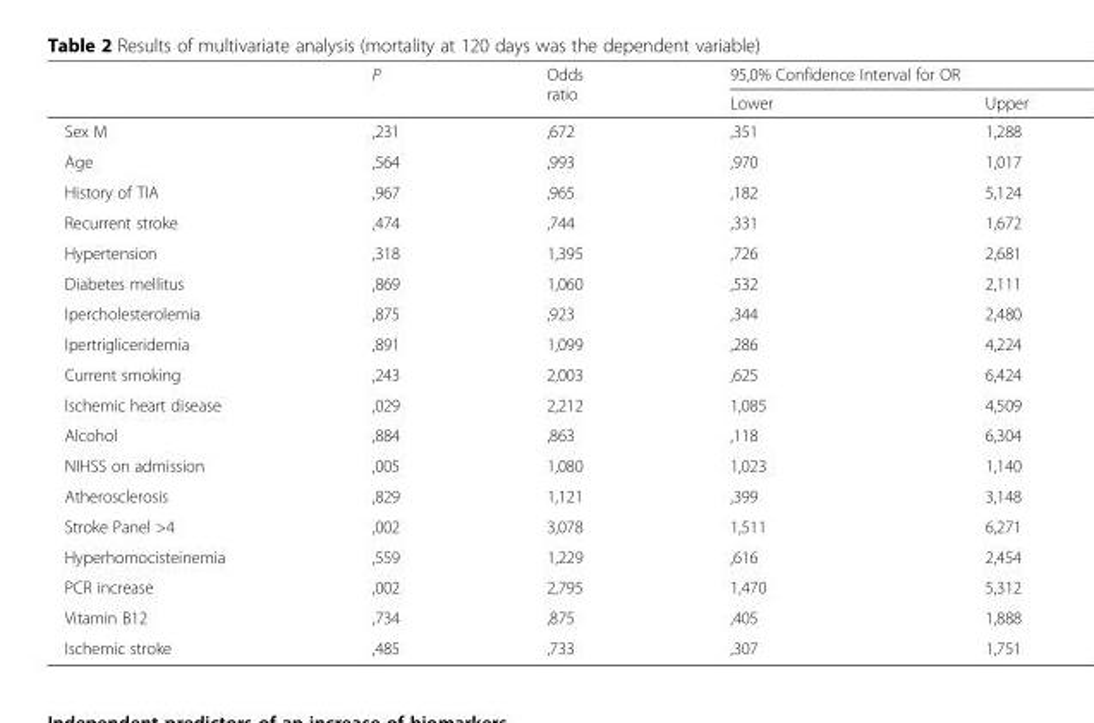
<table><thead><tr><td rowspan="2"></td><td rowspan="2">P</td><td rowspan="2">Odds ratio</td><td colspan="2">95,0% Confidence IntervaI for OR</td></tr><tr><td>Lower</td><td>Upper</td></tr></thead><tbody><tr><td>Sex M</td><td>,231</td><td>,672</td><td>,351</td><td>1,288</td></tr><tr><td>Age</td><td>,564</td><td>,993</td><td>,970</td><td>1,017</td></tr><tr><td>History of TIA</td><td>,967</td><td>,965</td><td>,182</td><td>5,124</td></tr><tr><td>Recurrent stroke</td><td>,474</td><td>,744</td><td>,331</td><td>1,672</td></tr><tr><td>Hypertension</td><td>,318</td><td>1,395</td><td>,726</td><td>2,681</td></tr><tr><td>Diabetes mellitus</td><td>,869</td><td>1,060</td><td>,532</td><td>2,111</td></tr><tr><td>Ipercholesterolemia</td><td>,875</td><td>,923</td><td>,344</td><td>2,480</td></tr><tr><td>Ipertrigliceridemia</td><td>,891</td><td>1,099</td><td>,286</td><td>4,224</td></tr><tr><td>Current smoking</td><td>,243</td><td>2,003</td><td>,625</td><td>6,424</td></tr><tr><td>Ischemic heart disease</td><td>,029</td><td>2,212</td><td>1,085</td><td>4,509</td></tr><tr><td>Alcohol</td><td>,884</td><td>,863</td><td>,118</td><td>6,304</td></tr><tr><td>NIHSS on admission</td><td>,005</td><td>1,080</td><td>1,023</td><td>1,140</td></tr><tr><td>Atherosclerosis</td><td>,829</td><td>1,121</td><td>,399</td><td>3,148</td></tr><tr><td>Stroke Panel &gt;4</td><td>,002</td><td>3,078</td><td>1,511</td><td>6,271</td></tr><tr><td>Hyperhomocisteinemia</td><td>,559</td><td>1,229</td><td>,616</td><td>2,454</td></tr><tr><td>PCR increase</td><td>,002</td><td>2,795</td><td>1,470</td><td>5,312</td></tr><tr><td>Vitamin B12</td><td>,734</td><td>,875</td><td>,405</td><td>1,888</td></tr><tr><td>Ischemic stroke</td><td>,485</td><td>,733</td><td>,307</td><td>1,751</td></tr></tbody></table>